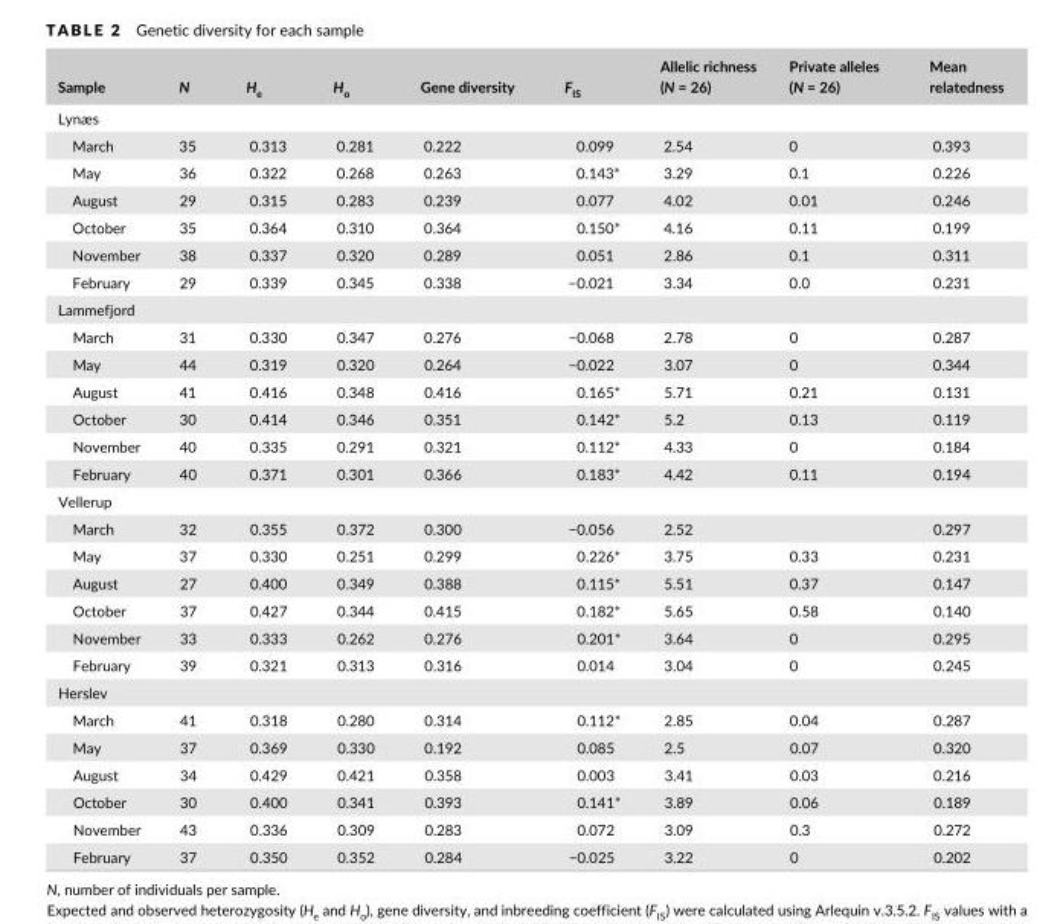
<table><thead><tr><td>Sample</td><td>N</td><td>H<sub>e</sub></td><td>H<sub>o</sub></td><td>Gene diversity</td><td>F<sub>IS</sub></td><td>Allelic richness (N = 26)</td><td>Private alleles (N = 26)</td><td>Mean relatedness</td></tr></thead><tbody><tr><td colspan="9">Lynæs</td></tr><tr><td>March</td><td>35</td><td>0.313</td><td>0.281</td><td>0.222</td><td>0.099</td><td>2.54</td><td>0</td><td>0.393</td></tr><tr><td>May</td><td>36</td><td>0.322</td><td>0.268</td><td>0.263</td><td>0.143*</td><td>3.29</td><td>0.1</td><td>0.226</td></tr><tr><td>August</td><td>29</td><td>0.315</td><td>0.283</td><td>0.239</td><td>0.077</td><td>4.02</td><td>0.01</td><td>0.246</td></tr><tr><td>October</td><td>35</td><td>0.364</td><td>0.310</td><td>0.364</td><td>0.150*</td><td>4.16</td><td>0.11</td><td>0.199</td></tr><tr><td>November</td><td>38</td><td>0.337</td><td>0.320</td><td>0.289</td><td>0.051</td><td>2.86</td><td>0.1</td><td>0.311</td></tr><tr><td>February</td><td>29</td><td>0.339</td><td>0.345</td><td>0.338</td><td>−0.021</td><td>3.34</td><td>0.0</td><td>0.231</td></tr><tr><td colspan="9">Lammefjord</td></tr><tr><td>March</td><td>31</td><td>0.330</td><td>0.347</td><td>0.276</td><td>−0.068</td><td>2.78</td><td>0</td><td>0.287</td></tr><tr><td>May</td><td>44</td><td>0.319</td><td>0.320</td><td>0.264</td><td>−0.022</td><td>3.07</td><td>0</td><td>0.344</td></tr><tr><td>August</td><td>41</td><td>0.416</td><td>0.348</td><td>0.416</td><td>0.165*</td><td>5.71</td><td>0.21</td><td>0.131</td></tr><tr><td>October</td><td>30</td><td>0.414</td><td>0.346</td><td>0.351</td><td>0.142*</td><td>5.2</td><td>0.13</td><td>0.119</td></tr><tr><td>November</td><td>40</td><td>0.335</td><td>0.291</td><td>0.321</td><td>0.112*</td><td>4.33</td><td>0</td><td>0.184</td></tr><tr><td>February</td><td>40</td><td>0.371</td><td>0.301</td><td>0.366</td><td>0.183*</td><td>4.42</td><td>0.11</td><td>0.194</td></tr><tr><td colspan="9">Vellerup</td></tr><tr><td>March</td><td>32</td><td>0.355</td><td>0.372</td><td>0.300</td><td>−0.056</td><td>2.52</td><td></td><td>0.297</td></tr><tr><td>May</td><td>37</td><td>0.330</td><td>0.251</td><td>0.299</td><td>0.226*</td><td>3.75</td><td>0.33</td><td>0.231</td></tr><tr><td>August</td><td>27</td><td>0.400</td><td>0.349</td><td>0.388</td><td>0.115*</td><td>5.51</td><td>0.37</td><td>0.147</td></tr><tr><td>October</td><td>37</td><td>0.427</td><td>0.344</td><td>0.415</td><td>0.182*</td><td>5.65</td><td>0.58</td><td>0.140</td></tr><tr><td>November</td><td>33</td><td>0.333</td><td>0.262</td><td>0.276</td><td>0.201*</td><td>3.64</td><td>0</td><td>0.295</td></tr><tr><td>February</td><td>39</td><td>0.321</td><td>0.313</td><td>0.316</td><td>0.014</td><td>3.04</td><td>0</td><td>0.245</td></tr><tr><td colspan="9">Herslev</td></tr><tr><td>March</td><td>41</td><td>0.318</td><td>0.280</td><td>0.314</td><td>0.112*</td><td>2.85</td><td>0.04</td><td>0.287</td></tr><tr><td>May</td><td>37</td><td>0.369</td><td>0.330</td><td>0.192</td><td>0.085</td><td>2.5</td><td>0.07</td><td>0.320</td></tr><tr><td>August</td><td>34</td><td>0.429</td><td>0.421</td><td>0.358</td><td>0.003</td><td>3.41</td><td>0.03</td><td>0.216</td></tr><tr><td>October</td><td>30</td><td>0.400</td><td>0.341</td><td>0.393</td><td>0.141*</td><td>3.89</td><td>0.06</td><td>0.189</td></tr><tr><td>November</td><td>43</td><td>0.336</td><td>0.309</td><td>0.283</td><td>0.072</td><td>3.09</td><td>0.3</td><td>0.272</td></tr><tr><td>February</td><td>37</td><td>0.350</td><td>0.352</td><td>0.284</td><td>−0.025</td><td>3.22</td><td>0</td><td>0.202</td></tr></tbody></table>